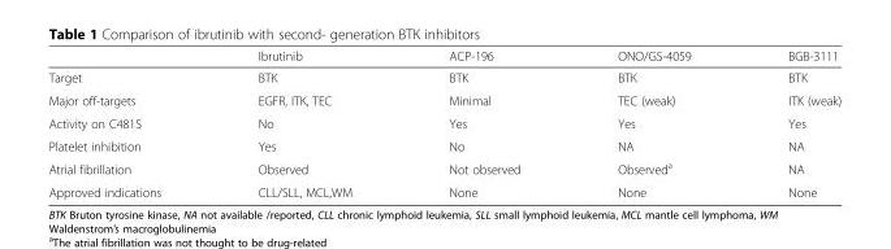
<table><thead><tr><td></td><td>Ibrutinib</td><td>ACP-196</td><td>ONO/GS-4059</td><td>BGB-3111</td></tr></thead><tbody><tr><td>Target</td><td>BTK</td><td>BTK</td><td>BTK</td><td>BTK</td></tr><tr><td>Major off-targets</td><td>EGFR, ITK, TEC</td><td>Minimal</td><td>TEC (weak)</td><td>ITK (weak)</td></tr><tr><td>Activity on C481S</td><td>No</td><td>Yes</td><td>Yes</td><td>Yes</td></tr><tr><td>Platelet inhibition</td><td>Yes</td><td>No</td><td>NA</td><td>NA</td></tr><tr><td>Atrial fibrillation</td><td>Observed</td><td>Not observed</td><td>Observed<sup>a</sup></td><td>NA</td></tr><tr><td>Approved indications</td><td>CLL/SLL, MCL,WM</td><td>None</td><td>None</td><td>None</td></tr></tbody></table>